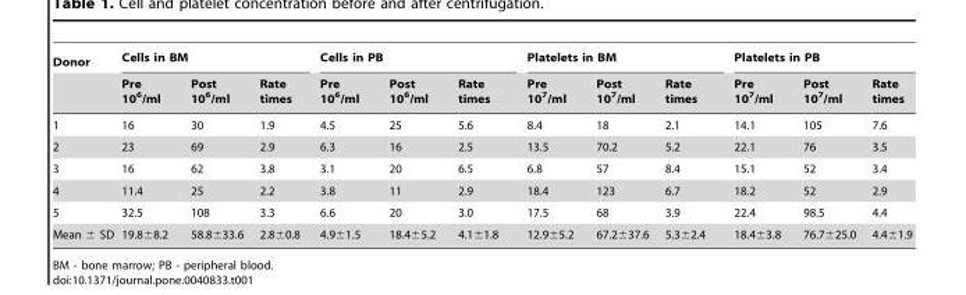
<table><thead><tr><td rowspan="2">Donor</td><td colspan="3">Cells in BM</td><td colspan="3">Cells in PB</td><td colspan="3">Platelets in BM</td><td colspan="3">Platelets in PB</td></tr><tr><td>Pre 10<sup>6</sup>/ml</td><td>Post 10<sup>6</sup>/ml</td><td>Rate times</td><td>Pre 10<sup>6</sup>/ml</td><td>Post 10<sup>6</sup>/ml</td><td>Rate times</td><td>Pre 10<sup>7</sup>/ml</td><td>Post 10<sup>7</sup>/ml</td><td>Rate times</td><td>Pre 10<sup>7</sup>/ml</td><td>Post 10<sup>7</sup>/ml</td><td>Rate times</td></tr></thead><tbody><tr><td>1</td><td>16</td><td>30</td><td>1.9</td><td>4.5</td><td>25</td><td>5.6</td><td>8.4</td><td>18</td><td>2.1</td><td>14.1</td><td>105</td><td>7.6</td></tr><tr><td>2</td><td>23</td><td>69</td><td>2.9</td><td>6.3</td><td>16</td><td>2.5</td><td>13.5</td><td>70.2</td><td>5.2</td><td>22.1</td><td>76</td><td>3.5</td></tr><tr><td>3</td><td>16</td><td>62</td><td>3.8</td><td>3.1</td><td>20</td><td>6.5</td><td>6.8</td><td>57</td><td>8.4</td><td>15.1</td><td>52</td><td>3.4</td></tr><tr><td>4</td><td>11.4</td><td>25</td><td>2.2</td><td>3.8</td><td>11</td><td>2.9</td><td>18.4</td><td>123</td><td>6.7</td><td>18.2</td><td>52</td><td>2.9</td></tr><tr><td>5</td><td>32.5</td><td>108</td><td>3.3</td><td>6.6</td><td>20</td><td>3.0</td><td>17.5</td><td>68</td><td>3.9</td><td>22.4</td><td>98.5</td><td>4.4</td></tr><tr><td>Mean ± SD</td><td>19.8±8.2</td><td>58.8±33.6</td><td>2.8±0.8</td><td>4.9±1.5</td><td>18.4±5.2</td><td>4.1±1.8</td><td>12.9±5.2</td><td>67.2±37.6</td><td>5.3±2.4</td><td>18.4±3.8</td><td>76.7±25.0</td><td>4.4±1.9</td></tr></tbody></table>